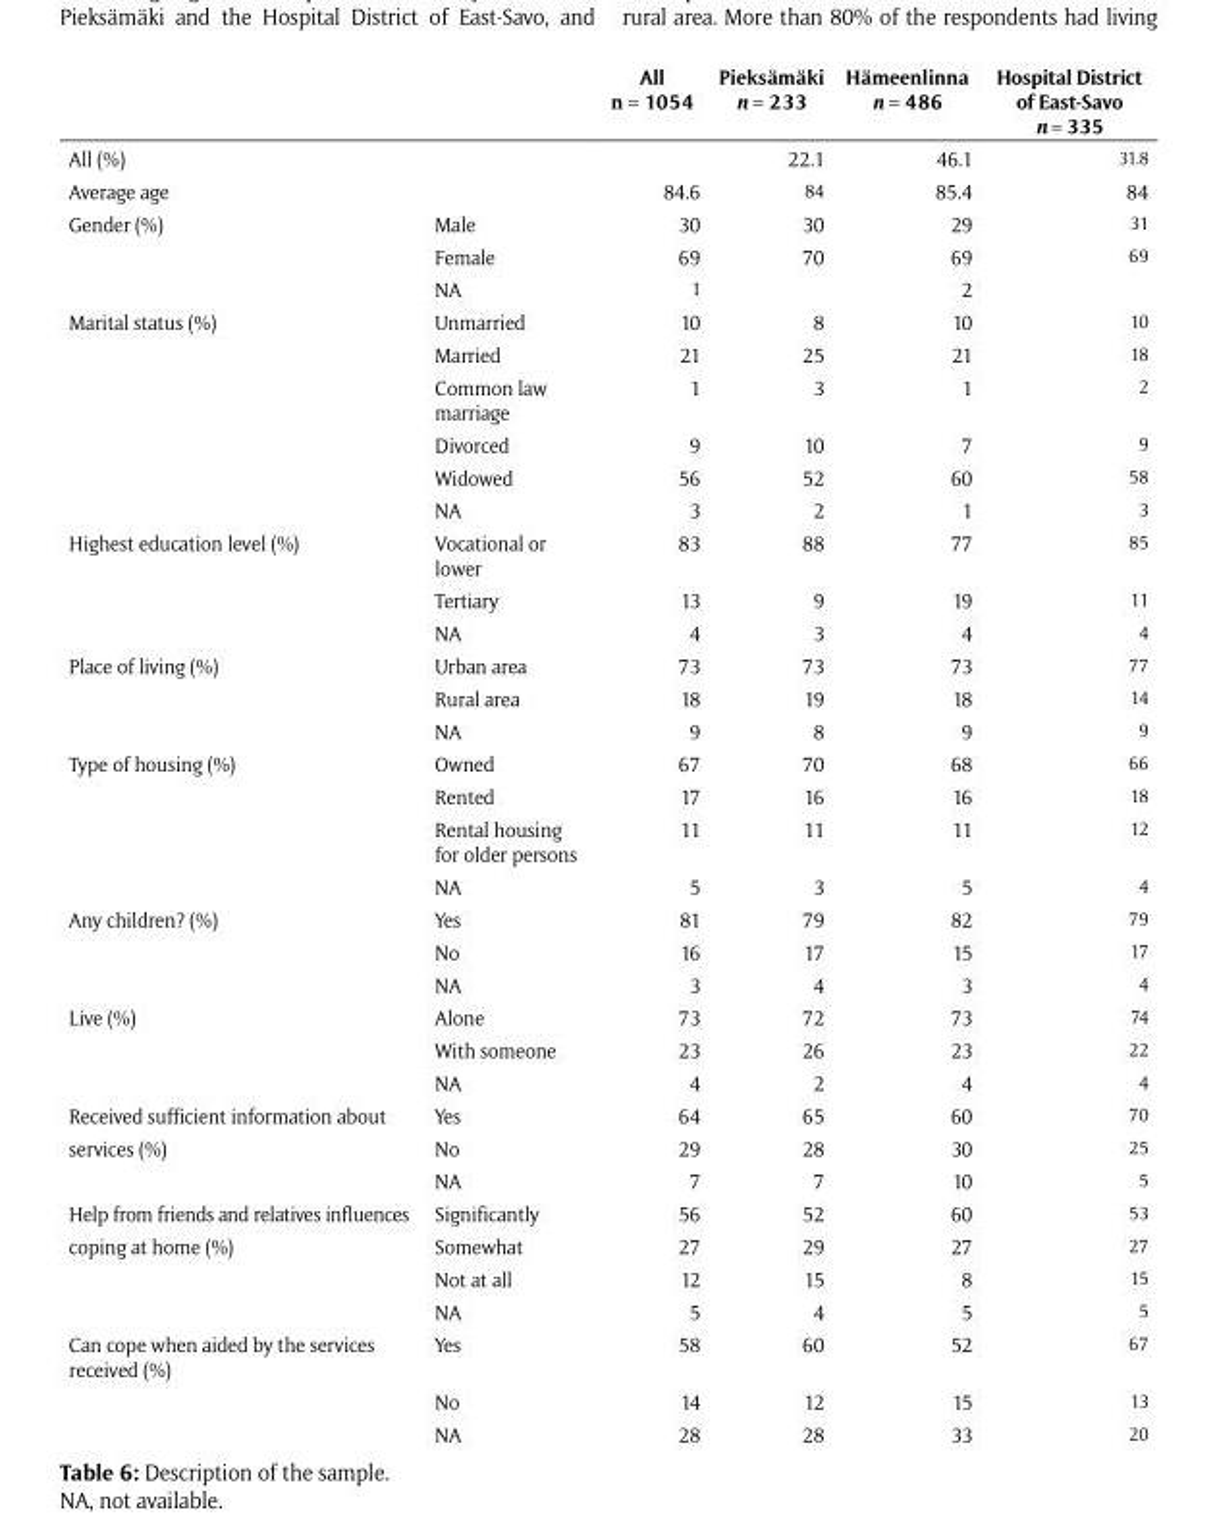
<table><thead><tr><td></td><td></td><td>All n = 1054</td><td>Pieksämäki n = 233</td><td>Hämeenlinna n = 486</td><td>Hospital District of East-Savo n = 335</td></tr></thead><tbody><tr><td>All (%)</td><td></td><td></td><td>22.1</td><td>46.1</td><td>31.8</td></tr><tr><td>Average age</td><td></td><td>84.6</td><td>84</td><td>85.4</td><td>84</td></tr><tr><td rowspan="3">Gender (%)</td><td>Male</td><td>30</td><td>30</td><td>29</td><td>31</td></tr><tr><td>Female</td><td>69</td><td>70</td><td>69</td><td>69</td></tr><tr><td>NA</td><td>1</td><td></td><td>2</td><td></td></tr><tr><td rowspan="6">Marital status (%)</td><td>Unmarried</td><td>10</td><td>8</td><td>10</td><td>10</td></tr><tr><td>Married</td><td>21</td><td>25</td><td>21</td><td>18</td></tr><tr><td>Common law marriage</td><td>1</td><td>3</td><td>1</td><td>2</td></tr><tr><td>Divorced</td><td>9</td><td>10</td><td>7</td><td>9</td></tr><tr><td>Widowed</td><td>56</td><td>52</td><td>60</td><td>58</td></tr><tr><td>NA</td><td>3</td><td>2</td><td>1</td><td>3</td></tr><tr><td rowspan="3">Highest education level (%)</td><td>Vocational or lower</td><td>83</td><td>88</td><td>77</td><td>85</td></tr><tr><td>Tertiary</td><td>13</td><td>9</td><td>19</td><td>11</td></tr><tr><td>NA</td><td>4</td><td>3</td><td>4</td><td>4</td></tr><tr><td rowspan="3">Place of living (%)</td><td>Urban area</td><td>73</td><td>73</td><td>73</td><td>77</td></tr><tr><td>Rural area</td><td>18</td><td>19</td><td>18</td><td>14</td></tr><tr><td>NA</td><td>9</td><td>8</td><td>9</td><td>9</td></tr><tr><td rowspan="4">Type of housing (%)</td><td>Owned</td><td>67</td><td>70</td><td>68</td><td>66</td></tr><tr><td>Rented</td><td>17</td><td>16</td><td>16</td><td>18</td></tr><tr><td>Rental housing for older persons</td><td>11</td><td>11</td><td>11</td><td>12</td></tr><tr><td>NA</td><td>5</td><td>3</td><td>5</td><td>4</td></tr><tr><td rowspan="3">Any children? (%)</td><td>Yes</td><td>81</td><td>79</td><td>82</td><td>79</td></tr><tr><td>No</td><td>16</td><td>17</td><td>15</td><td>17</td></tr><tr><td>NA</td><td>3</td><td>4</td><td>3</td><td>4</td></tr><tr><td rowspan="3">Live (%)</td><td>Alone</td><td>73</td><td>72</td><td>73</td><td>74</td></tr><tr><td>With someone</td><td>23</td><td>26</td><td>23</td><td>22</td></tr><tr><td>NA</td><td>4</td><td>2</td><td>4</td><td>4</td></tr><tr><td>Received sufficient information about</td><td>Yes</td><td>64</td><td>65</td><td>60</td><td>70</td></tr><tr><td rowspan="2">services (%)</td><td>No</td><td>29</td><td>28</td><td>30</td><td>25</td></tr><tr><td>NA</td><td>7</td><td>7</td><td>10</td><td>5</td></tr><tr><td>Help from friends and relatives influences</td><td>Significantly</td><td>56</td><td>52</td><td>60</td><td>53</td></tr><tr><td rowspan="3">coping at home (%)</td><td>Somewhat</td><td>27</td><td>29</td><td>27</td><td>27</td></tr><tr><td>Not at all</td><td>12</td><td>15</td><td>8</td><td>15</td></tr><tr><td>NA</td><td>5</td><td>4</td><td>5</td><td>5</td></tr><tr><td rowspan="3">Can cope when aided by the services received (%)</td><td>Yes</td><td>58</td><td>60</td><td>52</td><td>67</td></tr><tr><td>No</td><td>14</td><td>12</td><td>15</td><td>13</td></tr><tr><td>NA</td><td>28</td><td>28</td><td>33</td><td>20</td></tr></tbody></table>